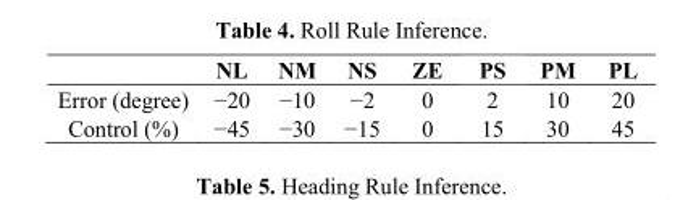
<table><thead><tr><td></td><td>NL</td><td>NM</td><td>NS</td><td>ZE</td><td>PS</td><td>PM</td><td>PL</td></tr></thead><tbody><tr><td>Error (degree)</td><td>−20</td><td>−10</td><td>−2</td><td>0</td><td>2</td><td>10</td><td>20</td></tr><tr><td>Control (%)</td><td>−45</td><td>−30</td><td>−15</td><td>0</td><td>15</td><td>30</td><td>45</td></tr></tbody></table>